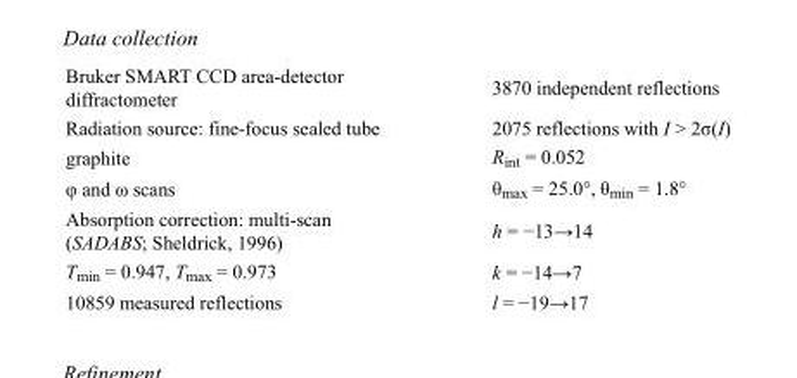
<table><tbody><tr><td>Bruker SMART CCD area-detector diffractometer</td><td>3870 independent reflections</td></tr><tr><td>Radiation source: fine-focus sealed tube</td><td>2075 reflections with I &gt; 2σ(I)</td></tr><tr><td>graphite</td><td>R<sub>int</sub> = 0.052</td></tr><tr><td>φ and ω scans</td><td>θ<sub>max</sub> = 25.0°, θ<sub>min</sub> = 1.8°</td></tr><tr><td>Absorption correction: multi-scan (SADABS; Sheldrick, 1996)</td><td>h = −13→14</td></tr><tr><td>T<sub>min</sub> = 0.947, T<sub>max</sub> = 0.973</td><td>k = −14→7</td></tr><tr><td>10859 measured reflections</td><td>l = −19→17</td></tr></tbody></table>